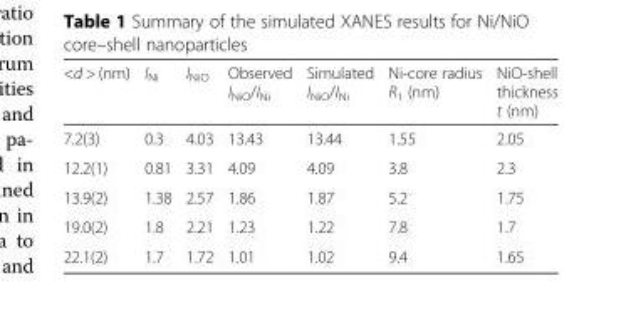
<table><thead><tr><td>&lt;d &gt; (nm)</td><td>I<sub>Ni</sub></td><td>I<sub>NiO</sub></td><td>Observed I<sub>NiO</sub>/I<sub>Ni</sub></td><td>Simulated I<sub>NiO</sub>/I<sub>Ni</sub></td><td>Ni-core radius R<sub>1</sub> (nm)</td><td>NiO-shell thickness t (nm)</td></tr></thead><tbody><tr><td>7.2(3)</td><td>0.3</td><td>4.03</td><td>13.43</td><td>13.44</td><td>1.55</td><td>2.05</td></tr><tr><td>12.2(1)</td><td>0.81</td><td>3.31</td><td>4.09</td><td>4.09</td><td>3.8</td><td>2.3</td></tr><tr><td>13.9(2)</td><td>1.38</td><td>2.57</td><td>1.86</td><td>1.87</td><td>5.2</td><td>1.75</td></tr><tr><td>19.0(2)</td><td>1.8</td><td>2.21</td><td>1.23</td><td>1.22</td><td>7.8</td><td>1.7</td></tr><tr><td>22.1(2)</td><td>1.7</td><td>1.72</td><td>1.01</td><td>1.02</td><td>9.4</td><td>1.65</td></tr></tbody></table>